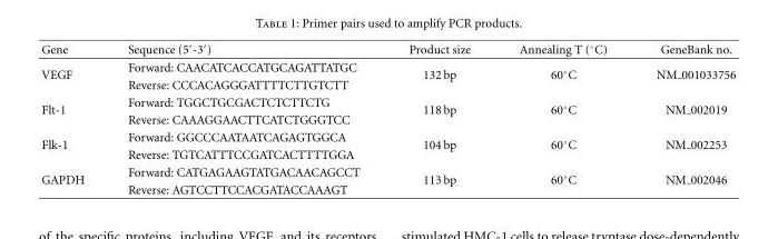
<table><thead><tr><td>Gene</td><td>Sequence (5′-3′)</td><td>Product size</td><td>Annealing T (◦C)</td><td>GeneBank no.</td></tr></thead><tbody><tr><td rowspan="2">VEGF</td><td>Forward: CAACATCACCATGCAGATTATGC</td><td rowspan="2">132 bp</td><td rowspan="2">60◦C</td><td rowspan="2">NM 001033756</td></tr><tr><td>Reverse: CCCACAGGGATTTTCTTGTCTT</td></tr><tr><td rowspan="2">Flt-1</td><td>Forward: TGGCTGCGACTCTCTTCTG</td><td rowspan="2">118 bp</td><td rowspan="2">60◦C</td><td rowspan="2">NM 002019</td></tr><tr><td>Reverse: CAAAGGAACTTCATCTGGGTCC</td></tr><tr><td rowspan="2">Flk-1</td><td>Forward: GGCCCAATAATCAGAGTGGCA</td><td rowspan="2">104 bp</td><td rowspan="2">60◦C</td><td rowspan="2">NM 002253</td></tr><tr><td>Reverse: TGTCATTTCCGATCACTTTTGGA</td></tr><tr><td rowspan="2">GAPDH</td><td>Forward: CATGAGAAGTATGACAACAGCCT</td><td rowspan="2">113 bp</td><td rowspan="2">60◦C</td><td rowspan="2">NM 002046</td></tr><tr><td>Reverse: AGTCCTTCCACGATACCAAAGT</td></tr></tbody></table>